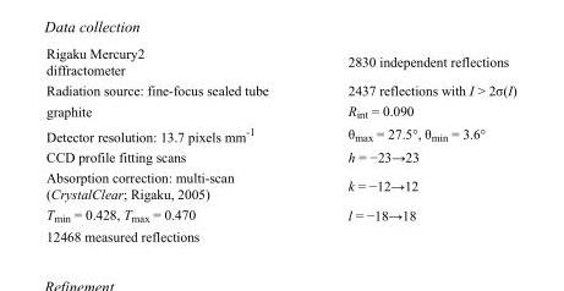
<table><tbody><tr><td>Rigaku Mercury2 diffractometer</td><td>2830 independent reflections</td></tr><tr><td>Radiation source: fine-focus sealed tube</td><td>2437 reflections with I &gt; 2σ(I)</td></tr><tr><td>graphite</td><td>R<sub>int</sub> = 0.090</td></tr><tr><td>Detector resolution: 13.7 pixels mm<sup>-1</sup></td><td>θ<sub>max</sub> = 27.5°, θ<sub>min</sub> = 3.6°</td></tr><tr><td>CCD profile fitting scans</td><td>h = −23→23</td></tr><tr><td>Absorption correction: multi-scan (CrystalClear; Rigaku, 2005)</td><td>k = −12→12</td></tr><tr><td>T<sub>min</sub> = 0.428, T<sub>max</sub> = 0.470</td><td>l = −18→18</td></tr><tr><td>12468 measured reflections</td><td></td></tr></tbody></table>